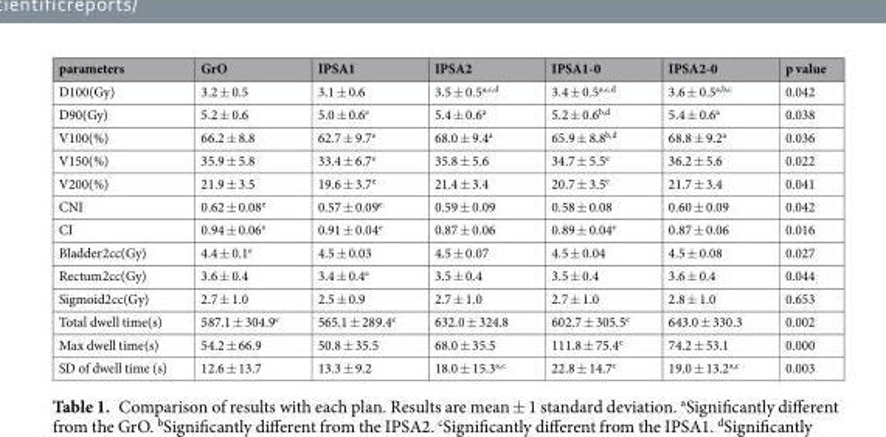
<table><thead><tr><td>parameters</td><td>GrO</td><td>IPSA1</td><td>IPSA2</td><td>IPSA1-0</td><td>IPSA2-0</td><td>p value</td></tr></thead><tbody><tr><td>D100(Gy)</td><td>3.2 ± 0.5</td><td>3.1 ± 0.6</td><td>3.5 ± 0.5<sup>a,c,d</sup></td><td>3.4 ± 0.5<sup>a,c,d</sup></td><td>3.6 ± 0.5<sup>a,b,c</sup></td><td>0.042</td></tr><tr><td>D90(Gy)</td><td>5.2 ± 0.6</td><td>5.0 ± 0.6<sup>e</sup></td><td>5.4 ± 0.6<sup>a</sup></td><td>5.2 ± 0.6<sup>b,d</sup></td><td>5.4 ± 0.6<sup>a</sup></td><td>0.038</td></tr><tr><td>V100(%)</td><td>66.2 ± 8.8</td><td>62.7 ± 9.7<sup>e</sup></td><td>68.0 ± 9.4<sup>a</sup></td><td>65.9 ± 8.8<sup>b,d</sup></td><td>68.8 ± 9.2<sup>a</sup></td><td>0.036</td></tr><tr><td>V150(%)</td><td>35.9 ± 5.8</td><td>33.4 ± 6.7<sup>e</sup></td><td>35.8 ± 5.6</td><td>34.7 ± 5.5<sup>e</sup></td><td>36.2 ± 5.6</td><td>0.022</td></tr><tr><td>V200(%)</td><td>21.9 ± 3.5</td><td>19.6 ± 3.7<sup>e</sup></td><td>21.4 ± 3.4</td><td>20.7 ± 3.5<sup>e</sup></td><td>21.7 ± 3.4</td><td>0.041</td></tr><tr><td>CNI</td><td>0.62 ± 0.08<sup>e</sup></td><td>0.57 ± 0.09<sup>e</sup></td><td>0.59 ± 0.09</td><td>0.58 ± 0.08</td><td>0.60 ± 0.09</td><td>0.042</td></tr><tr><td>CI</td><td>0.94 ± 0.06<sup>e</sup></td><td>0.91 ± 0.04<sup>e</sup></td><td>0.87 ± 0.06</td><td>0.89 ± 0.04<sup>e</sup></td><td>0.87 ± 0.06</td><td>0.016</td></tr><tr><td>Bladder2cc(Gy)</td><td>4.4 ± 0.1<sup>e</sup></td><td>4.5 ± 0.03</td><td>4.5 ± 0.07</td><td>4.5 ± 0.04</td><td>4.5 ± 0.08</td><td>0.027</td></tr><tr><td>Rectum2cc(Gy)</td><td>3.6 ± 0.4</td><td>3.4 ± 0.4<sup>e</sup></td><td>3.5 ± 0.4</td><td>3.5 ± 0.4</td><td>3.6 ± 0.4</td><td>0.044</td></tr><tr><td>Sigmoid2cc(Gy)</td><td>2.7 ± 1.0</td><td>2.5 ± 0.9</td><td>2.7 ± 1.0</td><td>2.7 ± 1.0</td><td>2.8 ± 1.0</td><td>0.653</td></tr><tr><td>Total dwell time(s)</td><td>587.1 ± 304.9<sup>e</sup></td><td>565.1 ± 289.4<sup>e</sup></td><td>632.0 ± 324.8</td><td>602.7 ± 305.5<sup>e</sup></td><td>643.0 ± 330.3</td><td>0.002</td></tr><tr><td>Max dwell time(s)</td><td>54.2 ± 66.9</td><td>50.8 ± 35.5</td><td>68.0 ± 35.5</td><td>111.8 ± 75.4<sup>e</sup></td><td>74.2 ± 53.1</td><td>0.000</td></tr><tr><td>SD of dwell time (s)</td><td>12.6 ± 13.7</td><td>13.3 ± 9.2</td><td>18.0 ± 15.3<sup>a,c</sup></td><td>22.8 ± 14.7<sup>e</sup></td><td>19.0 ± 13.2<sup>a,c</sup></td><td>0.003</td></tr></tbody></table>